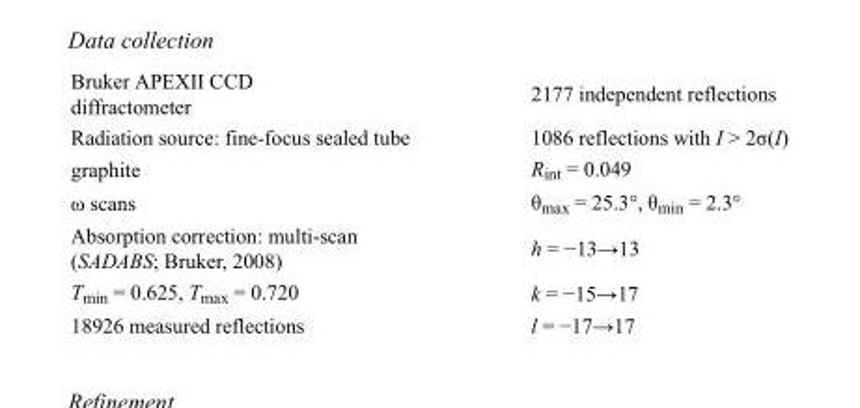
<table><tbody><tr><td>Bruker APEXII CCD diffractometer</td><td>2177 independent reflections</td></tr><tr><td>Radiation source: fine-focus sealed tube</td><td>1086 reflections with I &gt; 2σ(I)</td></tr><tr><td>graphite</td><td>R<sub>int</sub> = 0.049</td></tr><tr><td>ω scans</td><td>θ<sub>max</sub> = 25.3°, θ<sub>min</sub> = 2.3°</td></tr><tr><td>Absorption correction: multi-scan (SADABS; Bruker, 2008)</td><td>h = −13→13</td></tr><tr><td>T<sub>min</sub> = 0.625, T<sub>max</sub> = 0.720</td><td>k = −15→17</td></tr><tr><td>18926 measured reflections</td><td>l = −17→17</td></tr></tbody></table>